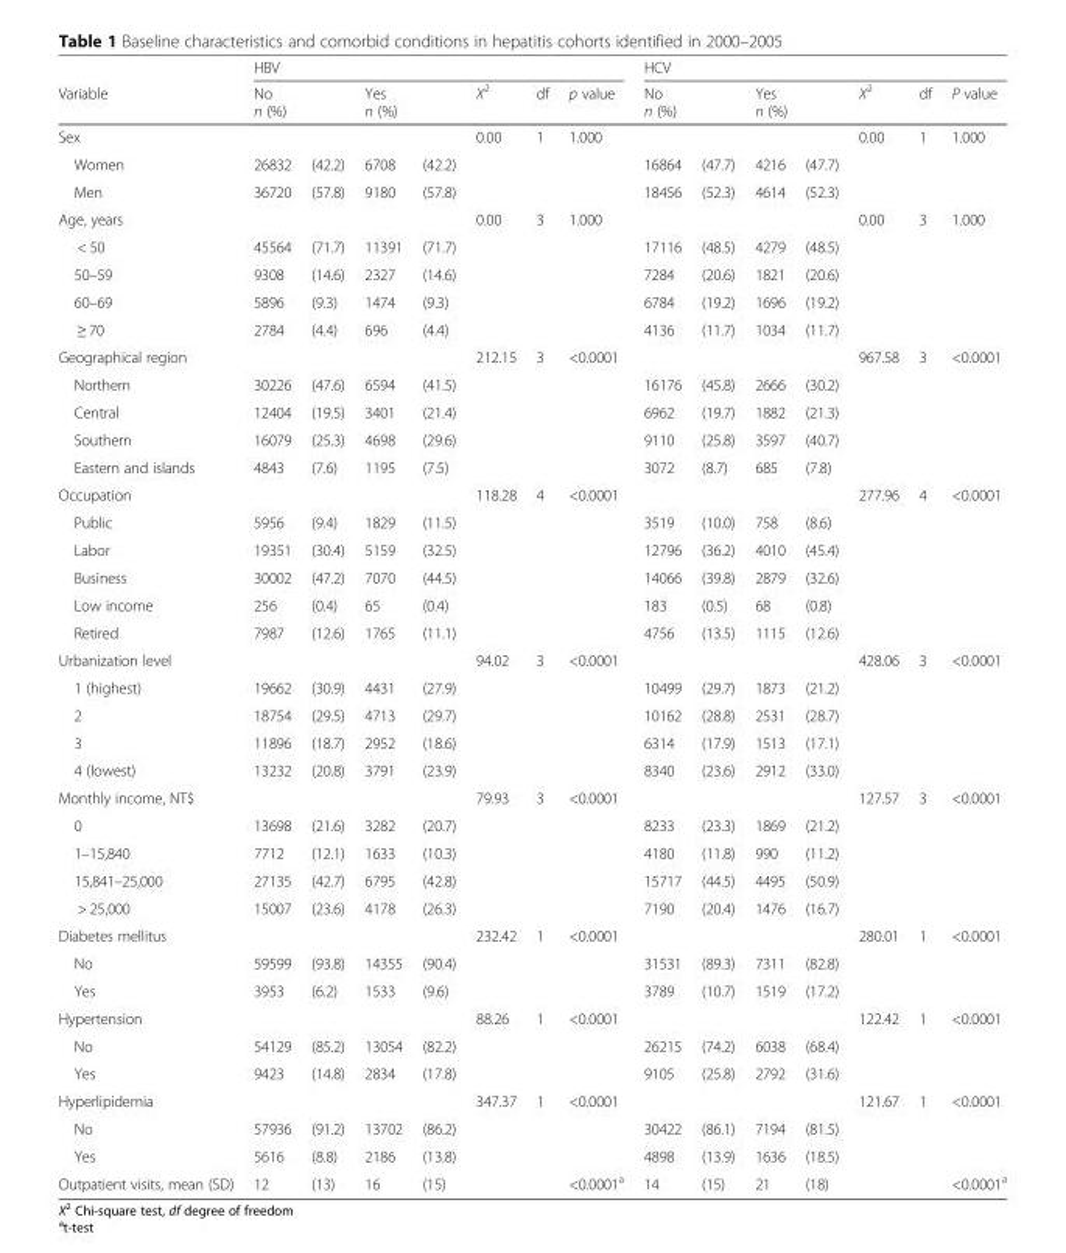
<table><thead><tr><td rowspan="3">Variable Sex</td><td colspan="7">HBV</td><td colspan="7">HCV</td></tr><tr><td colspan="2">No n (%)</td><td colspan="2">Yes n (%)</td><td rowspan="2">X<sup>2</sup> 0.00</td><td rowspan="2">df 1</td><td rowspan="2">p value 1.000</td><td colspan="2">No n (%)</td><td colspan="2">Yes n (%)</td><td rowspan="2">X<sup>2</sup> 0.00</td><td rowspan="2">df 1</td><td rowspan="2">P value 1.000</td></tr><tr><td></td><td></td><td></td><td></td><td></td><td></td><td></td><td></td></tr></thead><tbody><tr><td>Women</td><td>26832</td><td>(42.2)</td><td>6708</td><td>(42.2)</td><td></td><td></td><td></td><td>16864</td><td>(47.7)</td><td>4216</td><td>(47.7)</td><td></td><td></td><td></td></tr><tr><td>Men</td><td>36720</td><td>(57.8)</td><td>9180</td><td>(57.8)</td><td></td><td></td><td></td><td>18456</td><td>(52.3)</td><td>4614</td><td>(52.3)</td><td></td><td></td><td></td></tr><tr><td>Age, years</td><td></td><td></td><td></td><td></td><td>0.00</td><td>3</td><td>1.000</td><td></td><td></td><td></td><td></td><td>0.00</td><td>3</td><td>1.000</td></tr><tr><td>&lt; 50</td><td>45564</td><td>(71.7)</td><td>11391</td><td>(71.7)</td><td></td><td></td><td></td><td>17116</td><td>(48.5)</td><td>4279</td><td>(48.5)</td><td></td><td></td><td></td></tr><tr><td>50–59</td><td>9308</td><td>(14.6)</td><td>2327</td><td>(14.6)</td><td></td><td></td><td></td><td>7284</td><td>(20.6)</td><td>1821</td><td>(20.6)</td><td></td><td></td><td></td></tr><tr><td>60–69</td><td>5896</td><td>(9.3)</td><td>1474</td><td>(9.3)</td><td></td><td></td><td></td><td>6784</td><td>(19.2)</td><td>1696</td><td>(19.2)</td><td></td><td></td><td></td></tr><tr><td>≥ 70</td><td>2784</td><td>(4.4)</td><td>696</td><td>(4.4)</td><td></td><td></td><td></td><td>4136</td><td>(11.7)</td><td>1034</td><td>(11.7)</td><td></td><td></td><td></td></tr><tr><td>Geographical region</td><td></td><td></td><td></td><td></td><td>212.15</td><td>3</td><td>&lt;0.0001</td><td></td><td></td><td></td><td></td><td>967.58</td><td>3</td><td>&lt;0.0001</td></tr><tr><td>Northern</td><td>30226</td><td>(47.6)</td><td>6594</td><td>(41.5)</td><td></td><td></td><td></td><td>16176</td><td>(45.8)</td><td>2666</td><td>(30.2)</td><td></td><td></td><td></td></tr><tr><td>Central</td><td>12404</td><td>(19.5)</td><td>3401</td><td>(21.4)</td><td></td><td></td><td></td><td>6962</td><td>(19.7)</td><td>1882</td><td>(21.3)</td><td></td><td></td><td></td></tr><tr><td>Southern</td><td>16079</td><td>(25.3)</td><td>4698</td><td>(29.6)</td><td></td><td></td><td></td><td>9110</td><td>(25.8)</td><td>3597</td><td>(40.7)</td><td></td><td></td><td></td></tr><tr><td>Eastern and islands</td><td>4843</td><td>(7.6)</td><td>1195</td><td>(7.5)</td><td></td><td></td><td></td><td>3072</td><td>(8.7)</td><td>685</td><td>(7.8)</td><td></td><td></td><td></td></tr><tr><td>Occupation</td><td></td><td></td><td></td><td></td><td>118.28</td><td>4</td><td>&lt;0.0001</td><td></td><td></td><td></td><td></td><td>277.96</td><td>4</td><td>&lt;0.0001</td></tr><tr><td>Public</td><td>5956</td><td>(9.4)</td><td>1829</td><td>(11.5)</td><td></td><td></td><td></td><td>3519</td><td>(10.0)</td><td>758</td><td>(8.6)</td><td></td><td></td><td></td></tr><tr><td>Labor</td><td>19351</td><td>(30.4)</td><td>5159</td><td>(32.5)</td><td></td><td></td><td></td><td>12796</td><td>(36.2)</td><td>4010</td><td>(45.4)</td><td></td><td></td><td></td></tr><tr><td>Business</td><td>30002</td><td>(47.2)</td><td>7070</td><td>(44.5)</td><td></td><td></td><td></td><td>14066</td><td>(39.8)</td><td>2879</td><td>(32.6)</td><td></td><td></td><td></td></tr><tr><td>Low income</td><td>256</td><td>(0.4)</td><td>65</td><td>(0.4)</td><td></td><td></td><td></td><td>183</td><td>(0.5)</td><td>68</td><td>(0.8)</td><td></td><td></td><td></td></tr><tr><td>Retired</td><td>7987</td><td>(12.6)</td><td>1765</td><td>(11.1)</td><td></td><td></td><td></td><td>4756</td><td>(13.5)</td><td>1115</td><td>(12.6)</td><td></td><td></td><td></td></tr><tr><td>Urbanization level</td><td></td><td></td><td></td><td></td><td>94.02</td><td>3</td><td>&lt;0.0001</td><td></td><td></td><td></td><td></td><td>428.06</td><td>3</td><td>&lt;0.0001</td></tr><tr><td>1 (highest)</td><td>19662</td><td>(30.9)</td><td>4431</td><td>(27.9)</td><td></td><td></td><td></td><td>10499</td><td>(29.7)</td><td>1873</td><td>(21.2)</td><td></td><td></td><td></td></tr><tr><td>2</td><td>18754</td><td>(29.5)</td><td>4713</td><td>(29.7)</td><td></td><td></td><td></td><td>10162</td><td>(28.8)</td><td>2531</td><td>(28.7)</td><td></td><td></td><td></td></tr><tr><td>3</td><td>11896</td><td>(18.7)</td><td>2952</td><td>(18.6)</td><td></td><td></td><td></td><td>6314</td><td>(17.9)</td><td>1513</td><td>(17.1)</td><td></td><td></td><td></td></tr><tr><td>4 (lowest)</td><td>13232</td><td>(20.8)</td><td>3791</td><td>(23.9)</td><td></td><td></td><td></td><td>8340</td><td>(23.6)</td><td>2912</td><td>(33.0)</td><td></td><td></td><td></td></tr><tr><td>Monthly income, NT$</td><td></td><td></td><td></td><td></td><td>79.93</td><td>3</td><td>&lt;0.0001</td><td></td><td></td><td></td><td></td><td>127.57</td><td>3</td><td>&lt;0.0001</td></tr><tr><td>0</td><td>13698</td><td>(21.6)</td><td>3282</td><td>(20.7)</td><td></td><td></td><td></td><td>8233</td><td>(23.3)</td><td>1869</td><td>(21.2)</td><td></td><td></td><td></td></tr><tr><td>1–15,840</td><td>7712</td><td>(12.1)</td><td>1633</td><td>(10.3)</td><td></td><td></td><td></td><td>4180</td><td>(11.8)</td><td>990</td><td>(11.2)</td><td></td><td></td><td></td></tr><tr><td>15,841–25,000</td><td>27135</td><td>(42.7)</td><td>6795</td><td>(42.8)</td><td></td><td></td><td></td><td>15717</td><td>(44.5)</td><td>4495</td><td>(50.9)</td><td></td><td></td><td></td></tr><tr><td>&gt; 25,000</td><td>15007</td><td>(23.6)</td><td>4178</td><td>(26.3)</td><td></td><td></td><td></td><td>7190</td><td>(20.4)</td><td>1476</td><td>(16.7)</td><td></td><td></td><td></td></tr><tr><td>Diabetes mellitus</td><td></td><td></td><td></td><td></td><td>232.42</td><td>1</td><td>&lt;0.0001</td><td></td><td></td><td></td><td></td><td>280.01</td><td>1</td><td>&lt;0.0001</td></tr><tr><td>No</td><td>59599</td><td>(93.8)</td><td>14355</td><td>(90.4)</td><td></td><td></td><td></td><td>31531</td><td>(89.3)</td><td>7311</td><td>(82.8)</td><td></td><td></td><td></td></tr><tr><td>Yes</td><td>3953</td><td>(6.2)</td><td>1533</td><td>(9.6)</td><td></td><td></td><td></td><td>3789</td><td>(10.7)</td><td>1519</td><td>(17.2)</td><td></td><td></td><td></td></tr><tr><td>Hypertension</td><td></td><td></td><td></td><td></td><td>88.26</td><td>1</td><td>&lt;0.0001</td><td></td><td></td><td></td><td></td><td>122.42</td><td>1</td><td>&lt;0.0001</td></tr><tr><td>No</td><td>54129</td><td>(85.2)</td><td>13054</td><td>(82.2)</td><td></td><td></td><td></td><td>26215</td><td>(74.2)</td><td>6038</td><td>(68.4)</td><td></td><td></td><td></td></tr><tr><td>Yes</td><td>9423</td><td>(14.8)</td><td>2834</td><td>(17.8)</td><td></td><td></td><td></td><td>9105</td><td>(25.8)</td><td>2792</td><td>(31.6)</td><td></td><td></td><td></td></tr><tr><td>Hyperlipidemia</td><td></td><td></td><td></td><td></td><td>347.37</td><td>1</td><td>&lt;0.0001</td><td></td><td></td><td></td><td></td><td>121.67</td><td>1</td><td>&lt;0.0001</td></tr><tr><td>No</td><td>57936</td><td>(91.2)</td><td>13702</td><td>(86.2)</td><td></td><td></td><td></td><td>30422</td><td>(86.1)</td><td>7194</td><td>(81.5)</td><td></td><td></td><td></td></tr><tr><td>Yes</td><td>5616</td><td>(8.8)</td><td>2186</td><td>(13.8)</td><td></td><td></td><td></td><td>4898</td><td>(13.9)</td><td>1636</td><td>(18.5)</td><td></td><td></td><td></td></tr><tr><td>Outpatient visits, mean (SD)</td><td>12</td><td>(13)</td><td>16</td><td>(15)</td><td></td><td></td><td>&lt;0.0001<sup>a</sup></td><td>14</td><td>(15)</td><td>21</td><td>(18)</td><td></td><td></td><td>&lt;0.0001<sup>a</sup></td></tr></tbody></table>